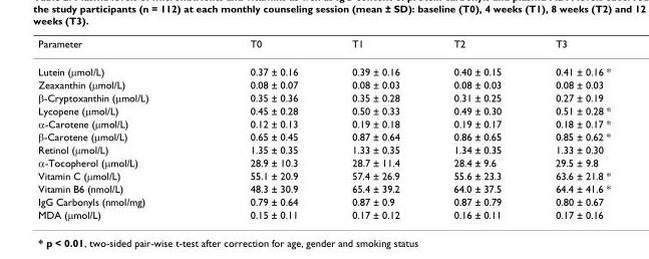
<table><thead><tr><td>Parameter</td><td>T0</td><td>T1</td><td>T2</td><td>T3</td></tr></thead><tbody><tr><td>Lutein (μmol/L)</td><td>0.37 ± 0.16</td><td>0.39 ± 0.16</td><td>0.40 ± 0.15</td><td>0.41 ± 0.16 *</td></tr><tr><td>Zeaxanthin (μmol/L)</td><td>0.08 ± 0.07</td><td>0.08 ± 0.03</td><td>0.08 ± 0.03</td><td>0.08 ± 0.03</td></tr><tr><td>β-Cryptoxanthin (μmol/L)</td><td>0.35 ± 0.36</td><td>0.35 ± 0.28</td><td>0.31 ± 0.25</td><td>0.27 ± 0.19</td></tr><tr><td>Lycopene (μmol/L)</td><td>0.45 ± 0.28</td><td>0.50 ± 0.33</td><td>0.49 ± 0.30</td><td>0.51 ± 0.28 *</td></tr><tr><td>α-Carotene (μmol/L)</td><td>0.12 ± 0.13</td><td>0.19 ± 0.18</td><td>0.19 ± 0.17</td><td>0.18 ± 0.17 *</td></tr><tr><td>β-Carotene (μmol/L)</td><td>0.65 ± 0.45</td><td>0.87 ± 0.64</td><td>0.86 ± 0.65</td><td>0.85 ± 0.62 *</td></tr><tr><td>Retinol (μmol/L)</td><td>1.35 ± 0.35</td><td>1.33 ± 0.35</td><td>1.34 ± 0.35</td><td>1.33 ± 0.30</td></tr><tr><td>α-Tocopherol (μmol/L)</td><td>28.9 ± 10.3</td><td>28.7 ± 11.4</td><td>28.4 ± 9.6</td><td>29.5 ± 9.8</td></tr><tr><td>Vitamin C (μmol/L)</td><td>55.1 ± 20.9</td><td>57.4 ± 26.9</td><td>55.6 ± 23.3</td><td>63.6 ± 21.8 *</td></tr><tr><td>Vitamin B6 (nmol/L)</td><td>48.3 ± 30.9</td><td>65.4 ± 39.2</td><td>64.0 ± 37.5</td><td>64.4 ± 41.6 *</td></tr><tr><td>IgG Carbonyls (nmol/mg)</td><td>0.79 ± 0.64</td><td>0.87 ± 0.9</td><td>0.87 ± 0.79</td><td>0.80 ± 0.67</td></tr><tr><td>MDA (μmol/L)</td><td>0.15 ± 0.11</td><td>0.17 ± 0.12</td><td>0.16 ± 0.11</td><td>0.17 ± 0.16</td></tr></tbody></table>